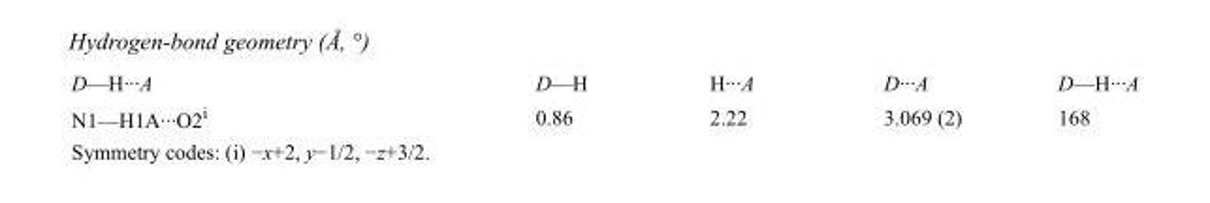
<table><tbody><tr><td>D—H···A</td><td>D—H</td><td>H···A</td><td>D···A</td><td>D—H···A</td></tr><tr><td>N1—H1A···O2<sup>i</sup></td><td>0.86</td><td>2.22</td><td>3.069 (2)</td><td>168</td></tr></tbody></table>